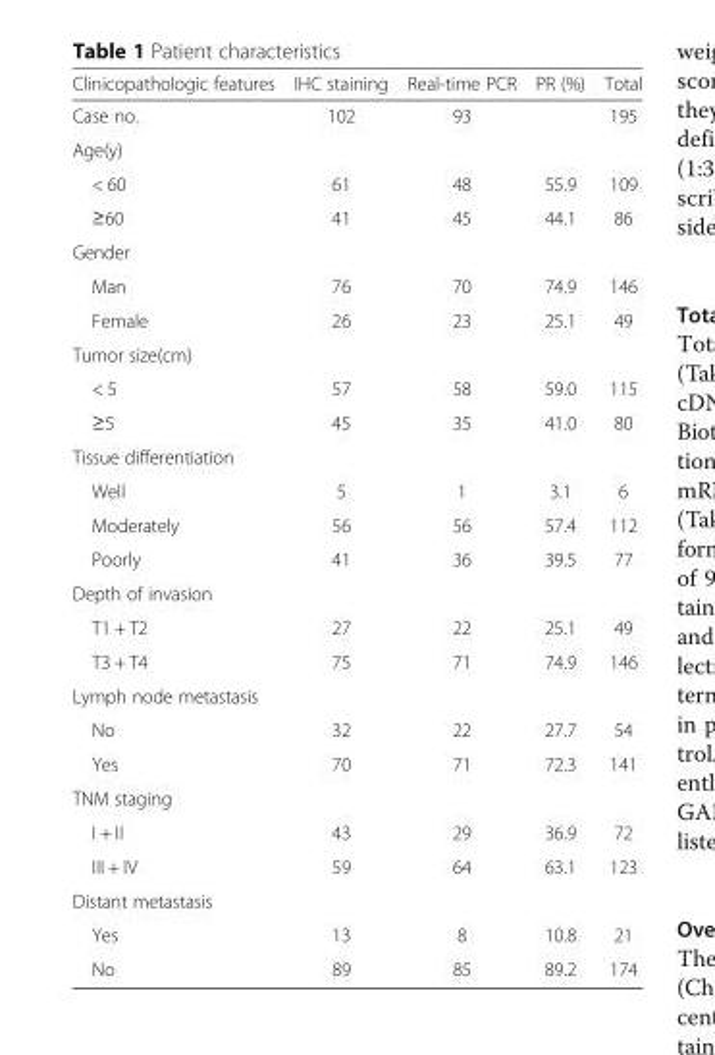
<table><thead><tr><td>Clinicopathologic features</td><td>IHC staining</td><td>Real-time PCR</td><td>PR (%)</td><td>Total</td></tr></thead><tbody><tr><td>Case no.</td><td>102</td><td>93</td><td></td><td>195</td></tr><tr><td colspan="5">Age(y)</td></tr><tr><td>&lt; 60</td><td>61</td><td>48</td><td>55.9</td><td>109</td></tr><tr><td>≥60</td><td>41</td><td>45</td><td>44.1</td><td>86</td></tr><tr><td colspan="5">Gender</td></tr><tr><td>Man</td><td>76</td><td>70</td><td>74.9</td><td>146</td></tr><tr><td>Female</td><td>26</td><td>23</td><td>25.1</td><td>49</td></tr><tr><td colspan="5">Tumor size(cm)</td></tr><tr><td>&lt; 5</td><td>57</td><td>58</td><td>59.0</td><td>115</td></tr><tr><td>≥5</td><td>45</td><td>35</td><td>41.0</td><td>80</td></tr><tr><td colspan="5">Tissue differentiation</td></tr><tr><td>Well</td><td>5</td><td>1</td><td>3.1</td><td>6</td></tr><tr><td>Moderately</td><td>56</td><td>56</td><td>57.4</td><td>112</td></tr><tr><td>Poorly</td><td>41</td><td>36</td><td>39.5</td><td>77</td></tr><tr><td colspan="5">Depth of invasion</td></tr><tr><td>T1 + T2</td><td>27</td><td>22</td><td>25.1</td><td>49</td></tr><tr><td>T3 + T4</td><td>75</td><td>71</td><td>74.9</td><td>146</td></tr><tr><td colspan="5">Lymph node metastasis</td></tr><tr><td>No</td><td>32</td><td>22</td><td>27.7</td><td>54</td></tr><tr><td>Yes</td><td>70</td><td>71</td><td>72.3</td><td>141</td></tr><tr><td colspan="5">TNM staging</td></tr><tr><td>I + II</td><td>43</td><td>29</td><td>36.9</td><td>72</td></tr><tr><td>III + IV</td><td>59</td><td>64</td><td>63.1</td><td>123</td></tr><tr><td colspan="5">Distant metastasis</td></tr><tr><td>Yes</td><td>13</td><td>8</td><td>10.8</td><td>21</td></tr><tr><td>No</td><td>89</td><td>85</td><td>89.2</td><td>174</td></tr></tbody></table>